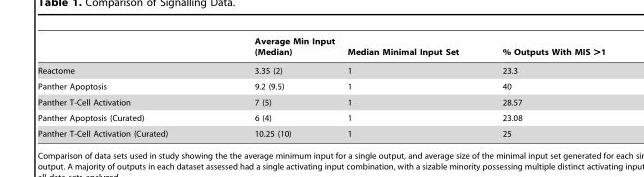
<table><thead><tr><td></td><td>Average Min Input (Median)</td><td>Median Minimal Input Set</td><td>% Outputs With MIS &gt;1</td></tr></thead><tbody><tr><td>Reactome</td><td>3.35 (2)</td><td>1</td><td>23.3</td></tr><tr><td>Panther Apoptosis</td><td>9.2 (9.5)</td><td>1</td><td>40</td></tr><tr><td>Panther T-Cell Activation</td><td>7 (5)</td><td>1</td><td>28.57</td></tr><tr><td>Panther Apoptosis (Curated)</td><td>6 (4)</td><td>1</td><td>23.08</td></tr><tr><td>Panther T-Cell Activation (Curated)</td><td>10.25 (10)</td><td>1</td><td>25</td></tr></tbody></table>